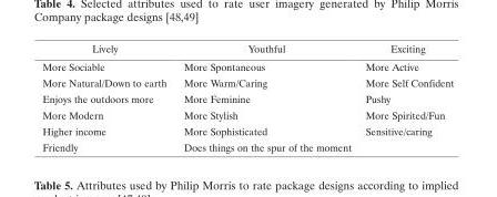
<table><thead><tr><td>Lively</td><td>Youthful</td><td>Exciting</td></tr></thead><tbody><tr><td>More Sociable</td><td>More Spontaneous</td><td>More Active</td></tr><tr><td>More Natural/Down to earth</td><td>More Warm/Caring</td><td>More Self Confident</td></tr><tr><td>Enjoys the outdoors more</td><td>More Feminine</td><td>Pushy</td></tr><tr><td>More Modern</td><td>More Stylish</td><td>More Spirited/Fun</td></tr><tr><td>Higher income</td><td>More Sophisticated</td><td>Sensitive/caring</td></tr><tr><td>Friendly</td><td>Does things on the spur of the moment</td><td></td></tr></tbody></table>